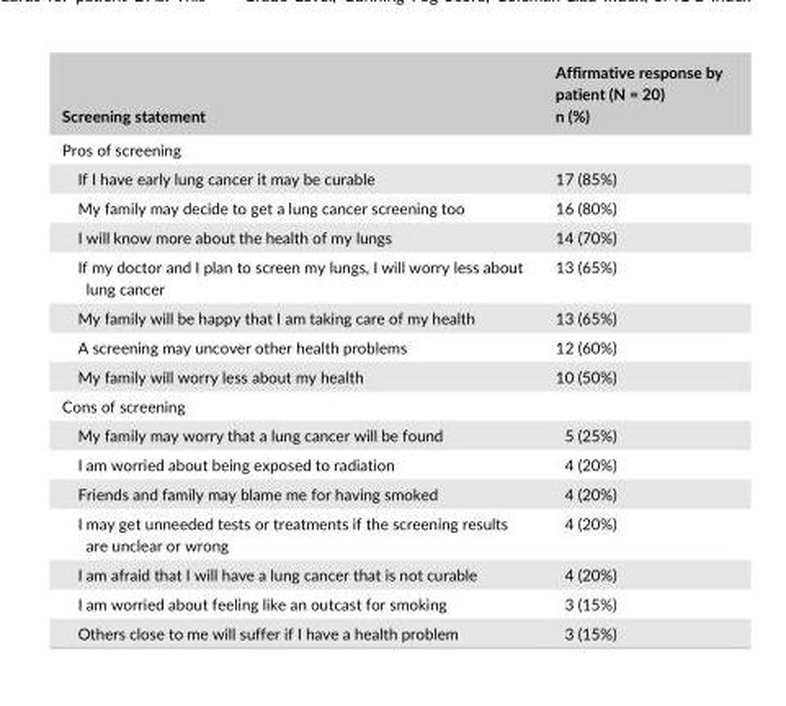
<table><thead><tr><td>Screening statement</td><td>Affirmative response by patient (N = 20) n (%)</td></tr></thead><tbody><tr><td colspan="2">Pros of screening</td></tr><tr><td>If I have early lung cancer it may be curable</td><td>17 (85%)</td></tr><tr><td>My family may decide to get a lung cancer screening too</td><td>16 (80%)</td></tr><tr><td>I will know more about the health of my lungs</td><td>14 (70%)</td></tr><tr><td>If my doctor and I plan to screen my lungs, I will worry less about lung cancer</td><td>13 (65%)</td></tr><tr><td>My family will be happy that I am taking care of my health</td><td>13 (65%)</td></tr><tr><td>A screening may uncover other health problems</td><td>12 (60%)</td></tr><tr><td>My family will worry less about my health</td><td>10 (50%)</td></tr><tr><td colspan="2">Cons of screening</td></tr><tr><td>My family may worry that a lung cancer will be found</td><td>5 (25%)</td></tr><tr><td>I am worried about being exposed to radiation</td><td>4 (20%)</td></tr><tr><td>Friends and family may blame me for having smoked</td><td>4 (20%)</td></tr><tr><td>I may get unneeded tests or treatments if the screening results are unclear or wrong</td><td>4 (20%)</td></tr><tr><td>I am afraid that I will have a lung cancer that is not curable</td><td>4 (20%)</td></tr><tr><td>I am worried about feeling like an outcast for smoking</td><td>3 (15%)</td></tr><tr><td>Others close to me will suffer if I have a health problem</td><td>3 (15%)</td></tr></tbody></table>